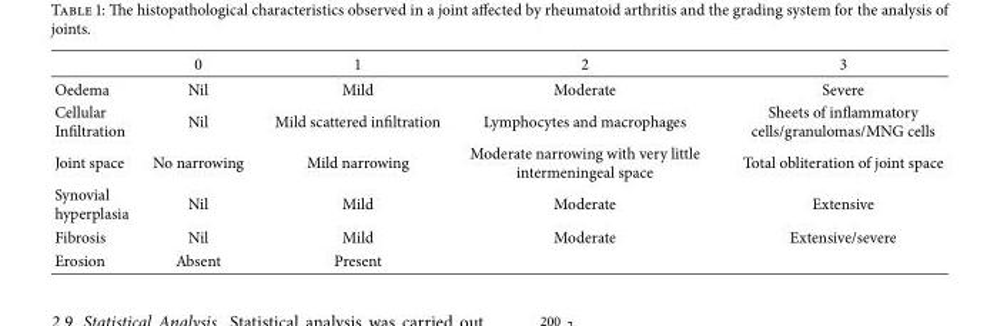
<table><thead><tr><td></td><td>0</td><td>1</td><td>2</td><td>3</td></tr></thead><tbody><tr><td>Oedema</td><td>Nil</td><td>Mild</td><td>Moderate</td><td>Severe</td></tr><tr><td>Cellular Infiltration</td><td>Nil</td><td>Mild scattered infiltration</td><td>Lymphocytes and macrophages</td><td>Sheets of inflammatory cells/granulomas/MNG cells</td></tr><tr><td>Joint space</td><td>No narrowing</td><td>Mild narrowing</td><td>Moderate narrowing with very little intermeningeal space</td><td>Total obliteration of joint space</td></tr><tr><td>Synovial hyperplasia</td><td>Nil</td><td>Mild</td><td>Moderate</td><td>Extensive</td></tr><tr><td>Fibrosis</td><td>Nil</td><td>Mild</td><td>Moderate</td><td>Extensive/severe</td></tr><tr><td>Erosion</td><td>Absent</td><td>Present</td><td></td><td></td></tr></tbody></table>